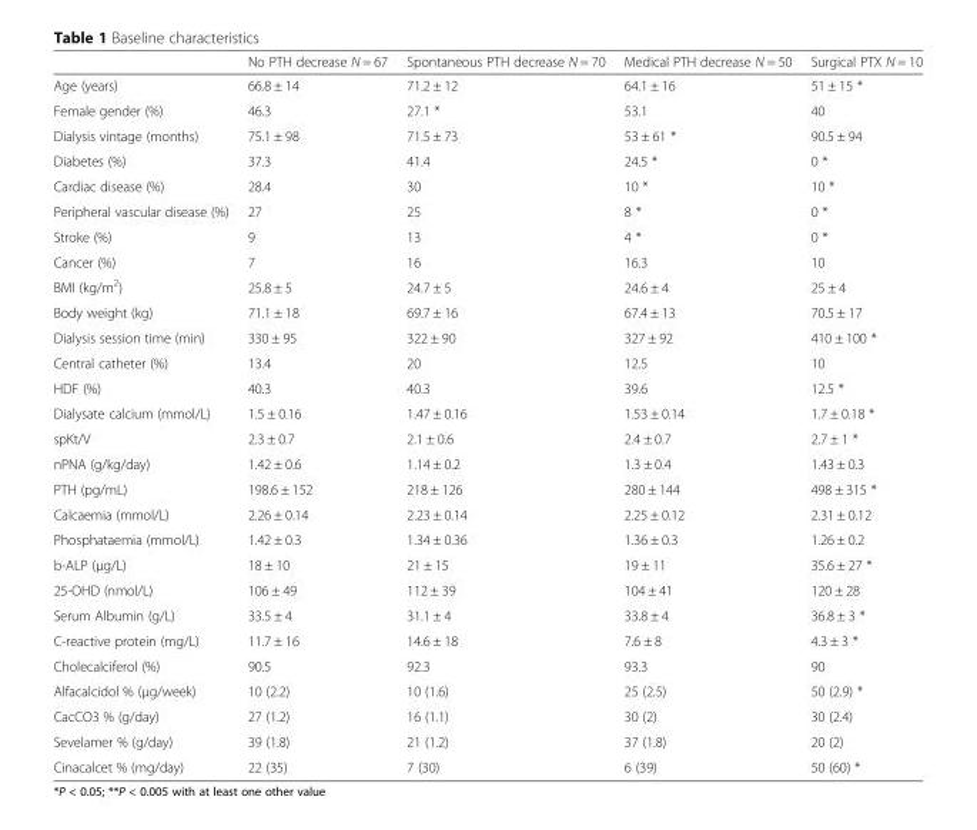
<table><thead><tr><td></td><td>No PTH decrease N = 67</td><td>Spontaneous PTH decrease N = 70</td><td>Medical PTH decrease N = 50</td><td>Surgical PTX N = 10</td></tr></thead><tbody><tr><td>Age (years)</td><td>66.8 ± 14</td><td>71.2 ± 12</td><td>64.1 ± 16</td><td>51 ± 15 *</td></tr><tr><td>Female gender (%)</td><td>46.3</td><td>27.1 *</td><td>53.1</td><td>40</td></tr><tr><td>Dialysis vintage (months)</td><td>75.1 ± 98</td><td>71.5 ± 73</td><td>53 ± 61 *</td><td>90.5 ± 94</td></tr><tr><td>Diabetes (%)</td><td>37.3</td><td>41.4</td><td>24.5 *</td><td>0 *</td></tr><tr><td>Cardiac disease (%)</td><td>28.4</td><td>30</td><td>10 *</td><td>10 *</td></tr><tr><td>Peripheral vascular disease (%)</td><td>27</td><td>25</td><td>8 *</td><td>0 *</td></tr><tr><td>Stroke (%)</td><td>9</td><td>13</td><td>4 *</td><td>0 *</td></tr><tr><td>Cancer (%)</td><td>7</td><td>16</td><td>16.3</td><td>10</td></tr><tr><td>BMI (kg/m<sup>2</sup>)</td><td>25.8 ± 5</td><td>24.7 ± 5</td><td>24.6 ± 4</td><td>25 ± 4</td></tr><tr><td>Body weight (kg)</td><td>71.1 ± 18</td><td>69.7 ± 16</td><td>67.4 ± 13</td><td>70.5 ± 17</td></tr><tr><td>Dialysis session time (min)</td><td>330 ± 95</td><td>322 ± 90</td><td>327 ± 92</td><td>410 ± 100 *</td></tr><tr><td>Central catheter (%)</td><td>13.4</td><td>20</td><td>12.5</td><td>10</td></tr><tr><td>HDF (%)</td><td>40.3</td><td>40.3</td><td>39.6</td><td>12.5 *</td></tr><tr><td>Dialysate calcium (mmol/L)</td><td>1.5 ± 0.16</td><td>1.47 ± 0.16</td><td>1.53 ± 0.14</td><td>1.7 ± 0.18 *</td></tr><tr><td>spKt/V</td><td>2.3 ± 0.7</td><td>2.1 ± 0.6</td><td>2.4 ± 0.7</td><td>2.7 ± 1 *</td></tr><tr><td>nPNA (g/kg/day)</td><td>1.42 ± 0.6</td><td>1.14 ± 0.2</td><td>1.3 ± 0.4</td><td>1.43 ± 0.3</td></tr><tr><td>PTH (pg/mL)</td><td>198.6 ± 152</td><td>218 ± 126</td><td>280 ± 144</td><td>498 ± 315 *</td></tr><tr><td>Calcaemia (mmol/L)</td><td>2.26 ± 0.14</td><td>2.23 ± 0.14</td><td>2.25 ± 0.12</td><td>2.31 ± 0.12</td></tr><tr><td>Phosphataemia (mmol/L)</td><td>1.42 ± 0.3</td><td>1.34 ± 0.36</td><td>1.36 ± 0.3</td><td>1.26 ± 0.2</td></tr><tr><td>b-ALP (μg/L)</td><td>18 ± 10</td><td>21 ± 15</td><td>19 ± 11</td><td>35.6 ± 27 *</td></tr><tr><td>25-OHD (nmol/L)</td><td>106 ± 49</td><td>112 ± 39</td><td>104 ± 41</td><td>120 ± 28</td></tr><tr><td>Serum Albumin (g/L)</td><td>33.5 ± 4</td><td>31.1 ± 4</td><td>33.8 ± 4</td><td>36.8 ± 3 *</td></tr><tr><td>C-reactive protein (mg/L)</td><td>11.7 ± 16</td><td>14.6 ± 18</td><td>7.6 ± 8</td><td>4.3 ± 3 *</td></tr><tr><td>Cholecalciferol (%)</td><td>90.5</td><td>92.3</td><td>93.3</td><td>90</td></tr><tr><td>Alfacalcidol % (μg/week)</td><td>10 (2.2)</td><td>10 (1.6)</td><td>25 (2.5)</td><td>50 (2.9) *</td></tr><tr><td>CacCO3 % (g/day)</td><td>27 (1.2)</td><td>16 (1.1)</td><td>30 (2)</td><td>30 (2.4)</td></tr><tr><td>Sevelamer % (g/day)</td><td>39 (1.8)</td><td>21 (1.2)</td><td>37 (1.8)</td><td>20 (2)</td></tr><tr><td>Cinacalcet % (mg/day)</td><td>22 (35)</td><td>7 (30)</td><td>6 (39)</td><td>50 (60) *</td></tr></tbody></table>